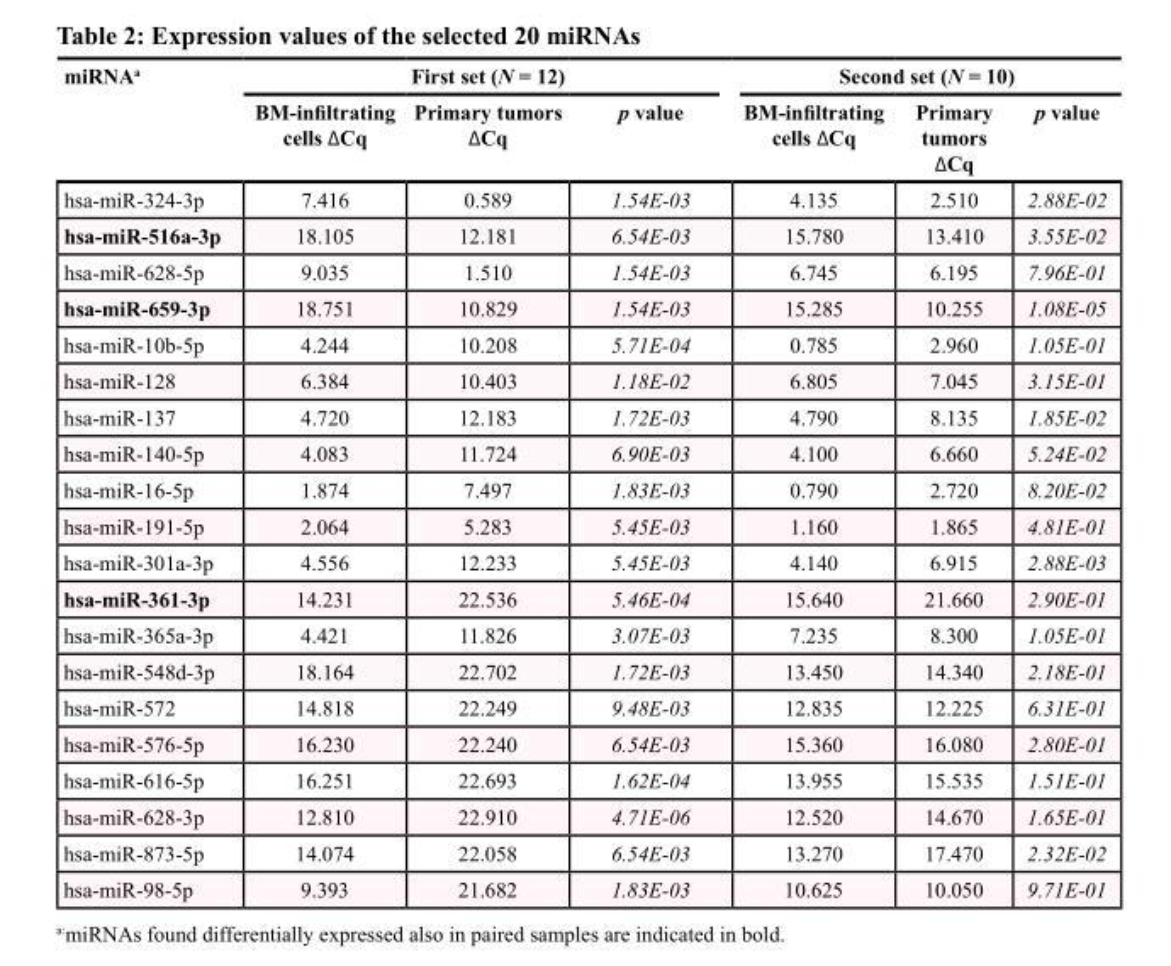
<table><thead><tr><td rowspan="2">miRNA<sup>a</sup></td><td colspan="3">First set (N = 12)</td><td colspan="3">Second set (N = 10)</td></tr><tr><td>BM-infiltrating cells ∆Cq</td><td>Primary tumors ∆Cq</td><td>p value</td><td>BM-infiltrating cells ∆Cq</td><td>Primary tumors ∆Cq</td><td>p value</td></tr></thead><tbody><tr><td>hsa-miR-324-3p</td><td>7.416</td><td>0.589</td><td>1.54E-03</td><td>4.135</td><td>2.510</td><td>2.88E-02</td></tr><tr><td>hsa-miR-516a-3p</td><td>18.105</td><td>12.181</td><td>6.54E-03</td><td>15.780</td><td>13.410</td><td>3.55E-02</td></tr><tr><td>hsa-miR-628-5p</td><td>9.035</td><td>1.510</td><td>1.54E-03</td><td>6.745</td><td>6.195</td><td>7.96E-01</td></tr><tr><td>hsa-miR-659-3p</td><td>18.751</td><td>10.829</td><td>1.54E-03</td><td>15.285</td><td>10.255</td><td>1.08E-05</td></tr><tr><td>hsa-miR-10b-5p</td><td>4.244</td><td>10.208</td><td>5.71E-04</td><td>0.785</td><td>2.960</td><td>1.05E-01</td></tr><tr><td>hsa-miR-128</td><td>6.384</td><td>10.403</td><td>1.18E-02</td><td>6.805</td><td>7.045</td><td>3.15E-01</td></tr><tr><td>hsa-miR-137</td><td>4.720</td><td>12.183</td><td>1.72E-03</td><td>4.790</td><td>8.135</td><td>1.85E-02</td></tr><tr><td>hsa-miR-140-5p</td><td>4.083</td><td>11.724</td><td>6.90E-03</td><td>4.100</td><td>6.660</td><td>5.24E-02</td></tr><tr><td>hsa-miR-16-5p</td><td>1.874</td><td>7.497</td><td>1.83E-03</td><td>0.790</td><td>2.720</td><td>8.20E-02</td></tr><tr><td>hsa-miR-191-5p</td><td>2.064</td><td>5.283</td><td>5.45E-03</td><td>1.160</td><td>1.865</td><td>4.81E-01</td></tr><tr><td>hsa-miR-301a-3p</td><td>4.556</td><td>12.233</td><td>5.45E-03</td><td>4.140</td><td>6.915</td><td>2.88E-03</td></tr><tr><td>hsa-miR-361-3p</td><td>14.231</td><td>22.536</td><td>5.46E-04</td><td>15.640</td><td>21.660</td><td>2.90E-01</td></tr><tr><td>hsa-miR-365a-3p</td><td>4.421</td><td>11.826</td><td>3.07E-03</td><td>7.235</td><td>8.300</td><td>1.05E-01</td></tr><tr><td>hsa-miR-548d-3p</td><td>18.164</td><td>22.702</td><td>1.72E-03</td><td>13.450</td><td>14.340</td><td>2.18E-01</td></tr><tr><td>hsa-miR-572</td><td>14.818</td><td>22.249</td><td>9.48E-03</td><td>12.835</td><td>12.225</td><td>6.31E-01</td></tr><tr><td>hsa-miR-576-5p</td><td>16.230</td><td>22.240</td><td>6.54E-03</td><td>15.360</td><td>16.080</td><td>2.80E-01</td></tr><tr><td>hsa-miR-616-5p</td><td>16.251</td><td>22.693</td><td>1.62E-04</td><td>13.955</td><td>15.535</td><td>1.51E-01</td></tr><tr><td>hsa-miR-628-3p</td><td>12.810</td><td>22.910</td><td>4.71E-06</td><td>12.520</td><td>14.670</td><td>1.65E-01</td></tr><tr><td>hsa-miR-873-5p</td><td>14.074</td><td>22.058</td><td>6.54E-03</td><td>13.270</td><td>17.470</td><td>2.32E-02</td></tr><tr><td>hsa-miR-98-5p</td><td>9.393</td><td>21.682</td><td>1.83E-03</td><td>10.625</td><td>10.050</td><td>9.71E-01</td></tr></tbody></table>